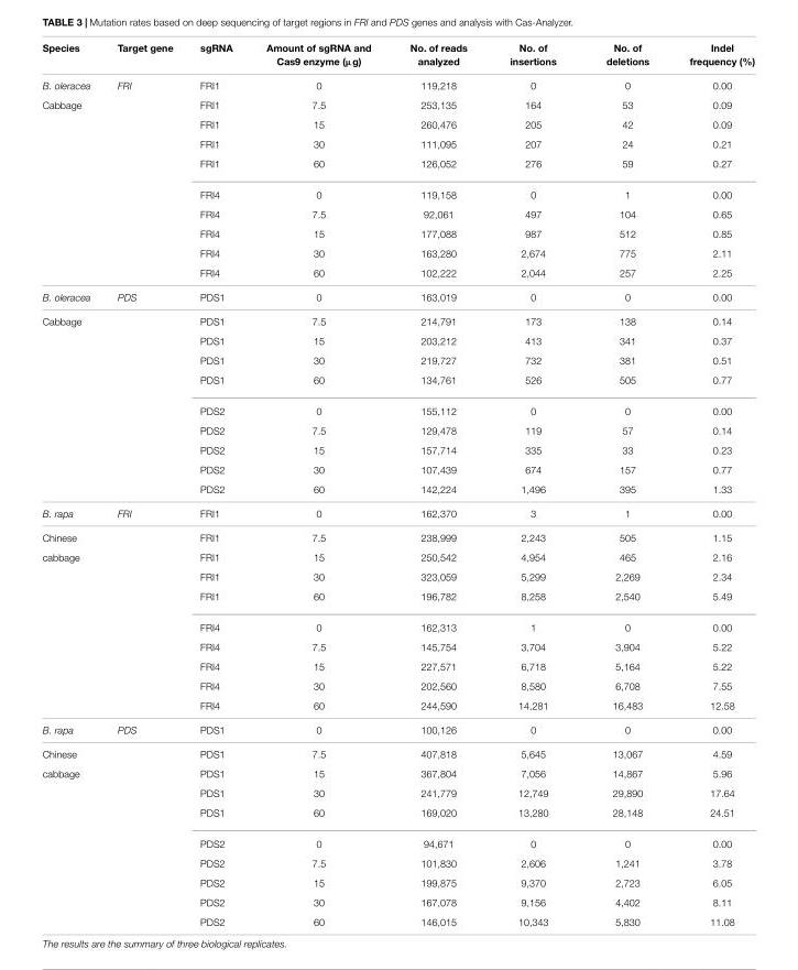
<table><thead><tr><td>Species</td><td>Target gene</td><td>sgRNA</td><td>Amount of sgRNA and Cas9 enzyme (µg)</td><td>No. of reads analyzed</td><td>No. of insertions</td><td>No. of deletions</td><td>Indel frequency (%)</td></tr></thead><tbody><tr><td>B. oleracea</td><td>FRI</td><td>FRI1</td><td>0</td><td>119,218</td><td>0</td><td>0</td><td>0.00</td></tr><tr><td rowspan="9">Cabbage</td><td></td><td>FRI1</td><td>7.5</td><td>253,135</td><td>164</td><td>53</td><td>0.09</td></tr><tr><td></td><td>FRI1</td><td>15</td><td>260,476</td><td>205</td><td>42</td><td>0.09</td></tr><tr><td></td><td>FRI1</td><td>30</td><td>111,095</td><td>207</td><td>24</td><td>0.21</td></tr><tr><td></td><td>FRI1</td><td>60</td><td>126,052</td><td>276</td><td>59</td><td>0.27</td></tr><tr><td></td><td>FRI4</td><td>0</td><td>119,158</td><td>0</td><td>1</td><td>0.00</td></tr><tr><td></td><td>FRI4</td><td>7.5</td><td>92,061</td><td>497</td><td>104</td><td>0.65</td></tr><tr><td></td><td>FRI4</td><td>15</td><td>177,088</td><td>987</td><td>512</td><td>0.85</td></tr><tr><td></td><td>FRI4</td><td>30</td><td>163,280</td><td>2,674</td><td>775</td><td>2.11</td></tr><tr><td></td><td>FRI4</td><td>60</td><td>102,222</td><td>2,044</td><td>257</td><td>2.25</td></tr><tr><td>B. oleracea</td><td>PDS</td><td>PDS1</td><td>0</td><td>163,019</td><td>0</td><td>0</td><td>0.00</td></tr><tr><td rowspan="9">Cabbage</td><td></td><td>PDS1</td><td>7.5</td><td>214,791</td><td>173</td><td>138</td><td>0.14</td></tr><tr><td></td><td>PDS1</td><td>15</td><td>203,212</td><td>413</td><td>341</td><td>0.37</td></tr><tr><td></td><td>PDS1</td><td>30</td><td>219,727</td><td>732</td><td>381</td><td>0.51</td></tr><tr><td></td><td>PDS1</td><td>60</td><td>134,761</td><td>526</td><td>505</td><td>0.77</td></tr><tr><td></td><td>PDS2</td><td>0</td><td>155,112</td><td>0</td><td>0</td><td>0.00</td></tr><tr><td></td><td>PDS2</td><td>7.5</td><td>129,478</td><td>119</td><td>57</td><td>0.14</td></tr><tr><td></td><td>PDS2</td><td>15</td><td>157,714</td><td>335</td><td>33</td><td>0.23</td></tr><tr><td></td><td>PDS2</td><td>30</td><td>107,439</td><td>674</td><td>157</td><td>0.77</td></tr><tr><td></td><td>PDS2</td><td>60</td><td>142,224</td><td>1,496</td><td>395</td><td>1.33</td></tr><tr><td>B. rapa</td><td>FRI</td><td>FRI1</td><td>0</td><td>162,370</td><td>3</td><td>1</td><td>0.00</td></tr><tr><td>Chinese</td><td></td><td>FRI1</td><td>7.5</td><td>238,999</td><td>2,243</td><td>505</td><td>1.15</td></tr><tr><td rowspan="8">cabbage</td><td></td><td>FRI1</td><td>15</td><td>250,542</td><td>4,954</td><td>465</td><td>2.16</td></tr><tr><td></td><td>FRI1</td><td>30</td><td>323,059</td><td>5,299</td><td>2,269</td><td>2.34</td></tr><tr><td></td><td>FRI1</td><td>60</td><td>196,782</td><td>8,258</td><td>2,540</td><td>5.49</td></tr><tr><td></td><td>FRI4</td><td>0</td><td>162,313</td><td>1</td><td>0</td><td>0.00</td></tr><tr><td></td><td>FRI4</td><td>7.5</td><td>145,754</td><td>3,704</td><td>3,904</td><td>5.22</td></tr><tr><td></td><td>FRI4</td><td>15</td><td>227,571</td><td>6,718</td><td>5,164</td><td>5.22</td></tr><tr><td></td><td>FRI4</td><td>30</td><td>202,560</td><td>8,580</td><td>6,708</td><td>7.55</td></tr><tr><td></td><td>FRI4</td><td>60</td><td>244,590</td><td>14,281</td><td>16,483</td><td>12.58</td></tr><tr><td>B. rapa</td><td>PDS</td><td>PDS1</td><td>0</td><td>100,126</td><td>0</td><td>0</td><td>0.00</td></tr><tr><td>Chinese</td><td></td><td>PDS1</td><td>7.5</td><td>407,818</td><td>5,645</td><td>13,067</td><td>4.59</td></tr><tr><td rowspan="8">cabbage</td><td></td><td>PDS1</td><td>15</td><td>367,804</td><td>7,056</td><td>14,867</td><td>5.96</td></tr><tr><td></td><td>PDS1</td><td>30</td><td>241,779</td><td>12,749</td><td>29,890</td><td>17.64</td></tr><tr><td></td><td>PDS1</td><td>60</td><td>169,020</td><td>13,280</td><td>28,148</td><td>24.51</td></tr><tr><td></td><td>PDS2</td><td>0</td><td>94,671</td><td>0</td><td>0</td><td>0.00</td></tr><tr><td></td><td>PDS2</td><td>7.5</td><td>101,830</td><td>2,606</td><td>1,241</td><td>3.78</td></tr><tr><td></td><td>PDS2</td><td>15</td><td>199,875</td><td>9,370</td><td>2,723</td><td>6.05</td></tr><tr><td></td><td>PDS2</td><td>30</td><td>167,078</td><td>9,156</td><td>4,402</td><td>8.11</td></tr><tr><td></td><td>PDS2</td><td>60</td><td>146,015</td><td>10,343</td><td>5,830</td><td>11.08</td></tr></tbody></table>